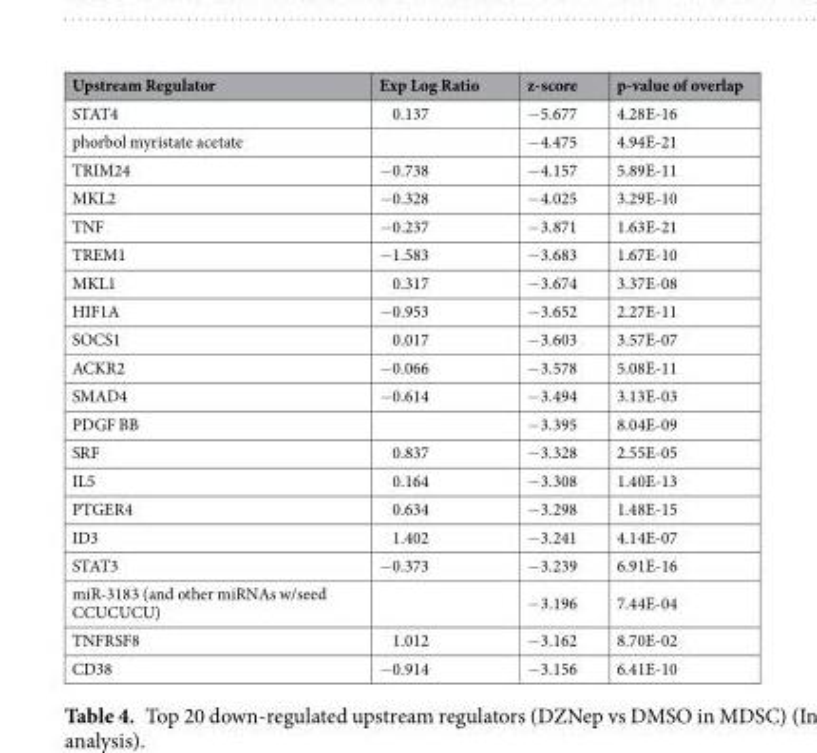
<table><thead><tr><td>Upstream Regulator</td><td>Exp Log Ratio</td><td>z-score</td><td>p-value of overlap</td></tr></thead><tbody><tr><td>STAT4</td><td>0.137</td><td>−5.677</td><td>4.28E-16</td></tr><tr><td>phorbol myristate acetate</td><td></td><td>−4.475</td><td>4.94E-21</td></tr><tr><td>TRIM24</td><td>−0.738</td><td>−4.157</td><td>5.89E-11</td></tr><tr><td>MKL2</td><td>−0.328</td><td>−4.025</td><td>3.29E-10</td></tr><tr><td>TNF</td><td>−0.237</td><td>−3.871</td><td>1.63E-21</td></tr><tr><td>TREM1</td><td>−1.583</td><td>−3.683</td><td>1.67E-10</td></tr><tr><td>MKL1</td><td>0.317</td><td>−3.674</td><td>3.37E-08</td></tr><tr><td>HIF1A</td><td>−0.953</td><td>−3.652</td><td>2.27E-11</td></tr><tr><td>SOCS1</td><td>0.017</td><td>−3.603</td><td>3.57E-07</td></tr><tr><td>ACKR2</td><td>−0.066</td><td>−3.578</td><td>5.08E-11</td></tr><tr><td>SMAD4</td><td>−0.614</td><td>−3.494</td><td>3.13E-03</td></tr><tr><td>PDGF BB</td><td></td><td>−3.395</td><td>8.04E-09</td></tr><tr><td>SRF</td><td>0.837</td><td>−3.328</td><td>2.55E-05</td></tr><tr><td>IL5</td><td>0.164</td><td>−3.308</td><td>1.40E-13</td></tr><tr><td>PTGER4</td><td>0.634</td><td>−3.298</td><td>1.48E-15</td></tr><tr><td>ID3</td><td>1.402</td><td>−3.241</td><td>4.14E-07</td></tr><tr><td>STAT3</td><td>−0.373</td><td>−3.239</td><td>6.91E-16</td></tr><tr><td>miR-3183 (and other miRNAs w/seed CCUCUCU)</td><td></td><td>−3.196</td><td>7.44E-04</td></tr><tr><td>TNFRSF8</td><td>1.012</td><td>−3.162</td><td>8.70E-02</td></tr><tr><td>CD38</td><td>−0.914</td><td>−3.156</td><td>6.41E-10</td></tr></tbody></table>